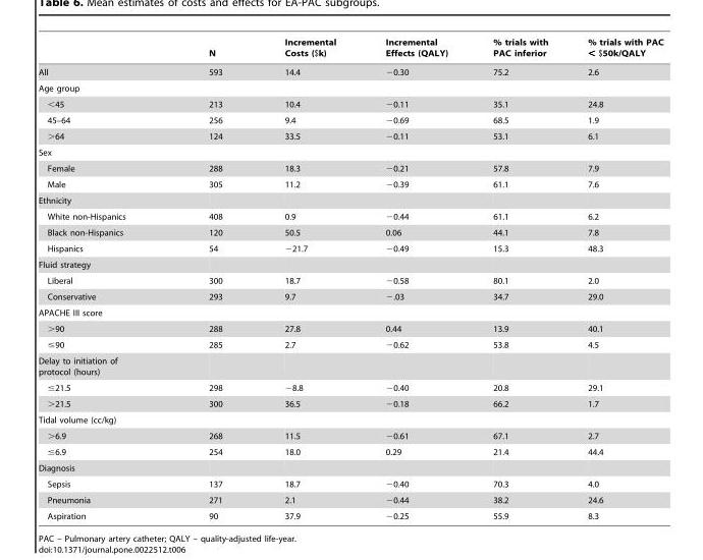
<table><thead><tr><td></td><td>N</td><td>Incremental Costs ($k)</td><td>Incremental Effects (QALY)</td><td>% trials with PAC inferior</td><td>% trials with PAC &lt; $50k/QALY</td></tr></thead><tbody><tr><td>All</td><td>593</td><td>14.4</td><td>−0.30</td><td>75.2</td><td>2.6</td></tr><tr><td colspan="6">Age group</td></tr><tr><td>&lt;45</td><td>213</td><td>10.4</td><td>−0.11</td><td>35.1</td><td>24.8</td></tr><tr><td>45–64</td><td>256</td><td>9.4</td><td>−0.69</td><td>68.5</td><td>1.9</td></tr><tr><td>&gt;64</td><td>124</td><td>33.5</td><td>−0.11</td><td>53.1</td><td>6.1</td></tr><tr><td colspan="6">Sex</td></tr><tr><td>Female</td><td>288</td><td>18.3</td><td>−0.21</td><td>57.8</td><td>7.9</td></tr><tr><td>Male</td><td>305</td><td>11.2</td><td>−0.39</td><td>61.1</td><td>7.6</td></tr><tr><td colspan="6">Ethnicity</td></tr><tr><td>White non-Hispanics</td><td>408</td><td>0.9</td><td>−0.44</td><td>61.1</td><td>6.2</td></tr><tr><td>Black non-Hispanics</td><td>120</td><td>50.5</td><td>0.06</td><td>44.1</td><td>7.8</td></tr><tr><td>Hispanics</td><td>54</td><td>−21.7</td><td>−0.49</td><td>15.3</td><td>48.3</td></tr><tr><td colspan="6">Fluid strategy</td></tr><tr><td>Liberal</td><td>300</td><td>18.7</td><td>−0.58</td><td>80.1</td><td>2.0</td></tr><tr><td>Conservative</td><td>293</td><td>9.7</td><td>−.03</td><td>34.7</td><td>29.0</td></tr><tr><td colspan="6">APACHE III score</td></tr><tr><td>&gt;90</td><td>288</td><td>27.8</td><td>0.44</td><td>13.9</td><td>40.1</td></tr><tr><td>≤90</td><td>285</td><td>2.7</td><td>−0.62</td><td>53.8</td><td>4.5</td></tr><tr><td colspan="6">Delay to initiation of protocol (hours)</td></tr><tr><td>≤21.5</td><td>298</td><td>−8.8</td><td>−0.40</td><td>20.8</td><td>29.1</td></tr><tr><td>&gt;21.5</td><td>300</td><td>36.5</td><td>−0.18</td><td>66.2</td><td>1.7</td></tr><tr><td colspan="6">Tidal volume (cc/kg)</td></tr><tr><td>&gt;6.9</td><td>268</td><td>11.5</td><td>−0.61</td><td>67.1</td><td>2.7</td></tr><tr><td>≤6.9</td><td>254</td><td>18.0</td><td>0.29</td><td>21.4</td><td>44.4</td></tr><tr><td colspan="6">Diagnosis</td></tr><tr><td>Sepsis</td><td>137</td><td>18.7</td><td>−0.40</td><td>70.3</td><td>4.0</td></tr><tr><td>Pneumonia</td><td>271</td><td>2.1</td><td>−0.44</td><td>38.2</td><td>24.6</td></tr><tr><td>Aspiration</td><td>90</td><td>37.9</td><td>−0.25</td><td>55.9</td><td>8.3</td></tr></tbody></table>